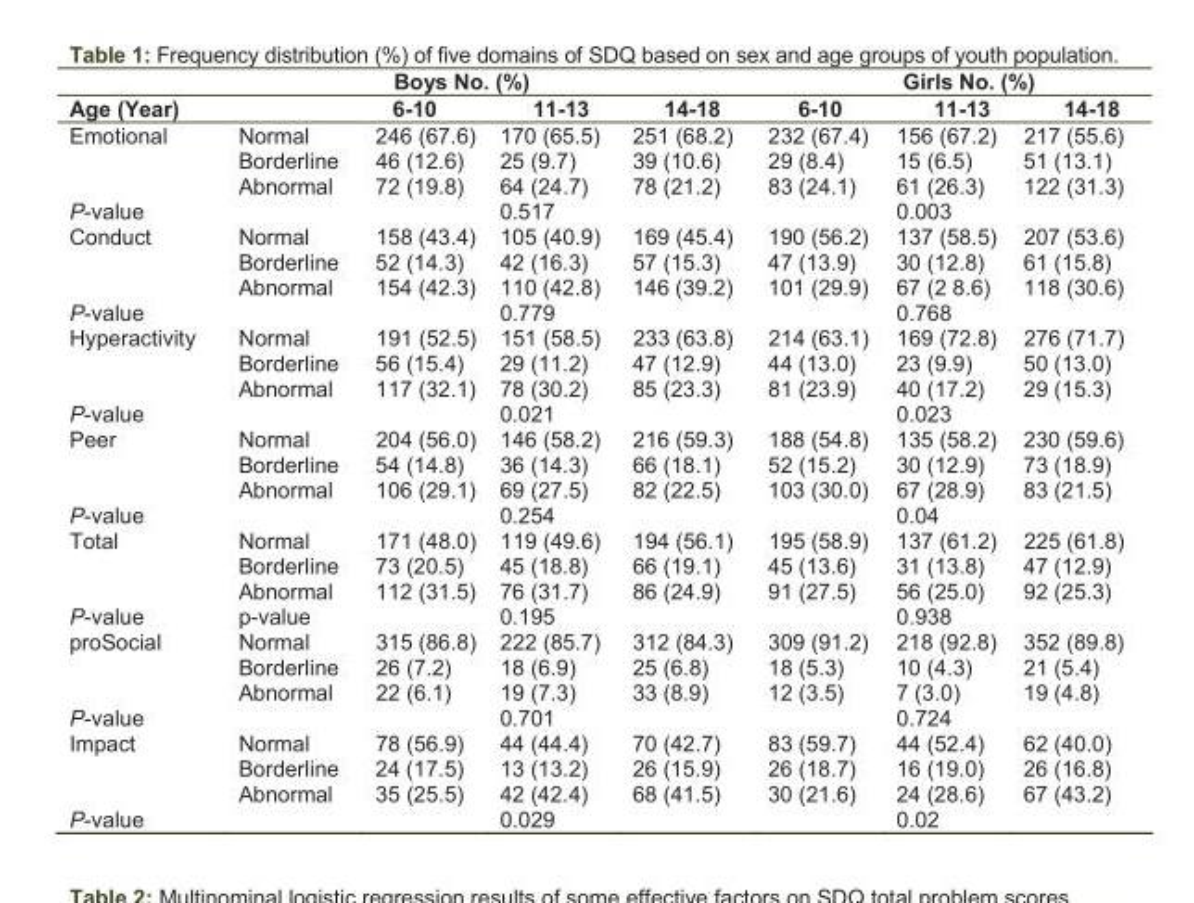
<table><thead><tr><td rowspan="2">Age (Year)</td><td rowspan="2"></td><td colspan="3">Boys No. (%)</td><td colspan="3">Girls No. (%)</td></tr><tr><td>6-10</td><td>11-13</td><td>14-18</td><td>6-10</td><td>11-13</td><td>14-18</td></tr></thead><tbody><tr><td rowspan="3">Emotional</td><td>Normal</td><td>246 (67.6)</td><td>170 (65.5)</td><td>251 (68.2)</td><td>232 (67.4)</td><td>156 (67.2)</td><td>217 (55.6)</td></tr><tr><td>Borderline</td><td>46 (12.6)</td><td>25 (9.7)</td><td>39 (10.6)</td><td>29 (8.4)</td><td>15 (6.5)</td><td>51 (13.1)</td></tr><tr><td>Abnormal</td><td>72 (19.8)</td><td>64 (24.7)</td><td>78 (21.2)</td><td>83 (24.1)</td><td>61 (26.3)</td><td>122 (31.3)</td></tr><tr><td>P-value</td><td></td><td></td><td>0.517</td><td></td><td></td><td>0.003</td><td></td></tr><tr><td rowspan="3">Conduct</td><td>Normal</td><td>158 (43.4)</td><td>105 (40.9)</td><td>169 (45.4)</td><td>190 (56.2)</td><td>137 (58.5)</td><td>207 (53.6)</td></tr><tr><td>Borderline</td><td>52 (14.3)</td><td>42 (16.3)</td><td>57 (15.3)</td><td>47 (13.9)</td><td>30 (12.8)</td><td>61 (15.8)</td></tr><tr><td>Abnormal</td><td>154 (42.3)</td><td>110 (42.8)</td><td>146 (39.2)</td><td>101 (29.9)</td><td>67 (2 8.6)</td><td>118 (30.6)</td></tr><tr><td>P-value</td><td></td><td></td><td>0.779</td><td></td><td></td><td>0.768</td><td></td></tr><tr><td rowspan="3">Hyperactivity</td><td>Normal</td><td>191 (52.5)</td><td>151 (58.5)</td><td>233 (63.8)</td><td>214 (63.1)</td><td>169 (72.8)</td><td>276 (71.7)</td></tr><tr><td>Borderline</td><td>56 (15.4)</td><td>29 (11.2)</td><td>47 (12.9)</td><td>44 (13.0)</td><td>23 (9.9)</td><td>50 (13.0)</td></tr><tr><td>Abnormal</td><td>117 (32.1)</td><td>78 (30.2)</td><td>85 (23.3)</td><td>81 (23.9)</td><td>40 (17.2)</td><td>29 (15.3)</td></tr><tr><td>P-value</td><td></td><td></td><td>0.021</td><td></td><td></td><td>0.023</td><td></td></tr><tr><td rowspan="3">Peer</td><td>Normal</td><td>204 (56.0)</td><td>146 (58.2)</td><td>216 (59.3)</td><td>188 (54.8)</td><td>135 (58.2)</td><td>230 (59.6)</td></tr><tr><td>Borderline</td><td>54 (14.8)</td><td>36 (14.3)</td><td>66 (18.1)</td><td>52 (15.2)</td><td>30 (12.9)</td><td>73 (18.9)</td></tr><tr><td>Abnormal</td><td>106 (29.1)</td><td>69 (27.5)</td><td>82 (22.5)</td><td>103 (30.0)</td><td>67 (28.9)</td><td>83 (21.5)</td></tr><tr><td>P-value</td><td></td><td></td><td>0.254</td><td></td><td></td><td>0.04</td><td></td></tr><tr><td rowspan="3">Total</td><td>Normal</td><td>171 (48.0)</td><td>119 (49.6)</td><td>194 (56.1)</td><td>195 (58.9)</td><td>137 (61.2)</td><td>225 (61.8)</td></tr><tr><td>Borderline</td><td>73 (20.5)</td><td>45 (18.8)</td><td>66 (19.1)</td><td>45 (13.6)</td><td>31 (13.8)</td><td>47 (12.9)</td></tr><tr><td>Abnormal</td><td>112 (31.5)</td><td>76 (31.7)</td><td>86 (24.9)</td><td>91 (27.5)</td><td>56 (25.0)</td><td>92 (25.3)</td></tr><tr><td>P-value</td><td>p-value</td><td></td><td>0.195</td><td></td><td></td><td>0.938</td><td></td></tr><tr><td rowspan="3">proSocial</td><td>Normal</td><td>315 (86.8)</td><td>222 (85.7)</td><td>312 (84.3)</td><td>309 (91.2)</td><td>218 (92.8)</td><td>352 (89.8)</td></tr><tr><td>Borderline</td><td>26 (7.2)</td><td>18 (6.9)</td><td>25 (6.8)</td><td>18 (5.3)</td><td>10 (4.3)</td><td>21 (5.4)</td></tr><tr><td>Abnormal</td><td>22 (6.1)</td><td>19 (7.3)</td><td>33 (8.9)</td><td>12 (3.5)</td><td>7 (3.0)</td><td>19 (4.8)</td></tr><tr><td>P-value</td><td></td><td></td><td>0.701</td><td></td><td></td><td>0.724</td><td></td></tr><tr><td rowspan="3">Impact</td><td>Normal</td><td>78 (56.9)</td><td>44 (44.4)</td><td>70 (42.7)</td><td>83 (59.7)</td><td>44 (52.4)</td><td>62 (40.0)</td></tr><tr><td>Borderline</td><td>24 (17.5)</td><td>13 (13.2)</td><td>26 (15.9)</td><td>26 (18.7)</td><td>16 (19.0)</td><td>26 (16.8)</td></tr><tr><td>Abnormal</td><td>35 (25.5)</td><td>42 (42.4)</td><td>68 (41.5)</td><td>30 (21.6)</td><td>24 (28.6)</td><td>67 (43.2)</td></tr><tr><td>P-value</td><td></td><td></td><td>0.029</td><td></td><td></td><td>0.02</td><td></td></tr></tbody></table>